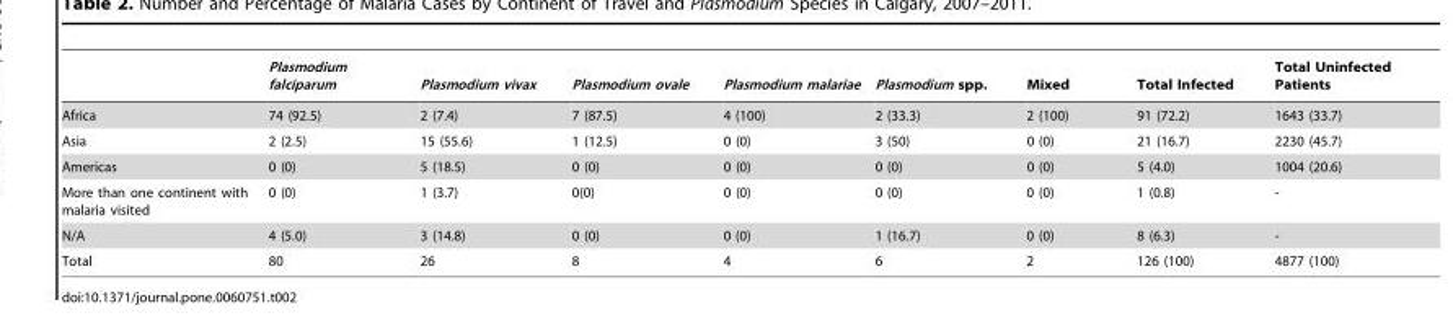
<table><thead><tr><td></td><td>Plasmodium falciparum</td><td>Plasmodium vivax</td><td>Plasmodium ovale</td><td>Plasmodium malariae</td><td>Plasmodium spp.</td><td>Mixed</td><td>Total Infected</td><td>Total Uninfected Patients</td></tr></thead><tbody><tr><td>Africa</td><td>74 (92.5)</td><td>2 (7.4)</td><td>7 (87.5)</td><td>4 (100)</td><td>2 (33.3)</td><td>2 (100)</td><td>91 (72.2)</td><td>1643 (33.7)</td></tr><tr><td>Asia</td><td>2 (2.5)</td><td>15 (55.6)</td><td>1 (12.5)</td><td>0 (0)</td><td>3 (50)</td><td>0 (0)</td><td>21 (16.7)</td><td>2230 (45.7)</td></tr><tr><td>Americas</td><td>0 (0)</td><td>5 (18.5)</td><td>0 (0)</td><td>0 (0)</td><td>0 (0)</td><td>0 (0)</td><td>5 (4.0)</td><td>1004 (20.6)</td></tr><tr><td>More than one continent with malaria visited</td><td>0 (0)</td><td>1 (3.7)</td><td>0(0)</td><td>0 (0)</td><td>0 (0)</td><td>0 (0)</td><td>1 (0.8)</td><td>-</td></tr><tr><td>N/A</td><td>4 (5.0)</td><td>3 (14.8)</td><td>0 (0)</td><td>0 (0)</td><td>1 (16.7)</td><td>0 (0)</td><td>8 (6.3)</td><td>-</td></tr><tr><td>Total</td><td>80</td><td>26</td><td>8</td><td>4</td><td>6</td><td>2</td><td>126 (100)</td><td>4877 (100)</td></tr></tbody></table>